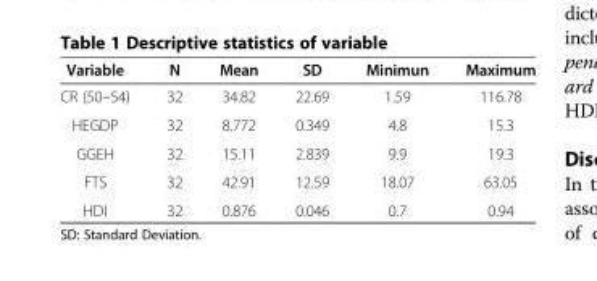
<table><thead><tr><td>Variable</td><td>N</td><td>Mean</td><td>SD</td><td>Minimun</td><td>Maximum</td></tr></thead><tbody><tr><td>CR (50–54)</td><td>32</td><td>34.82</td><td>22.69</td><td>1.59</td><td>116.78</td></tr><tr><td>HEGDP</td><td>32</td><td>8.772</td><td>0.349</td><td>4.8</td><td>15.3</td></tr><tr><td>GGEH</td><td>32</td><td>15.11</td><td>2.839</td><td>9.9</td><td>19.3</td></tr><tr><td>FTS</td><td>32</td><td>42.91</td><td>12.59</td><td>18.07</td><td>63.05</td></tr><tr><td>HDI</td><td>32</td><td>0.876</td><td>0.046</td><td>0.7</td><td>0.94</td></tr></tbody></table>